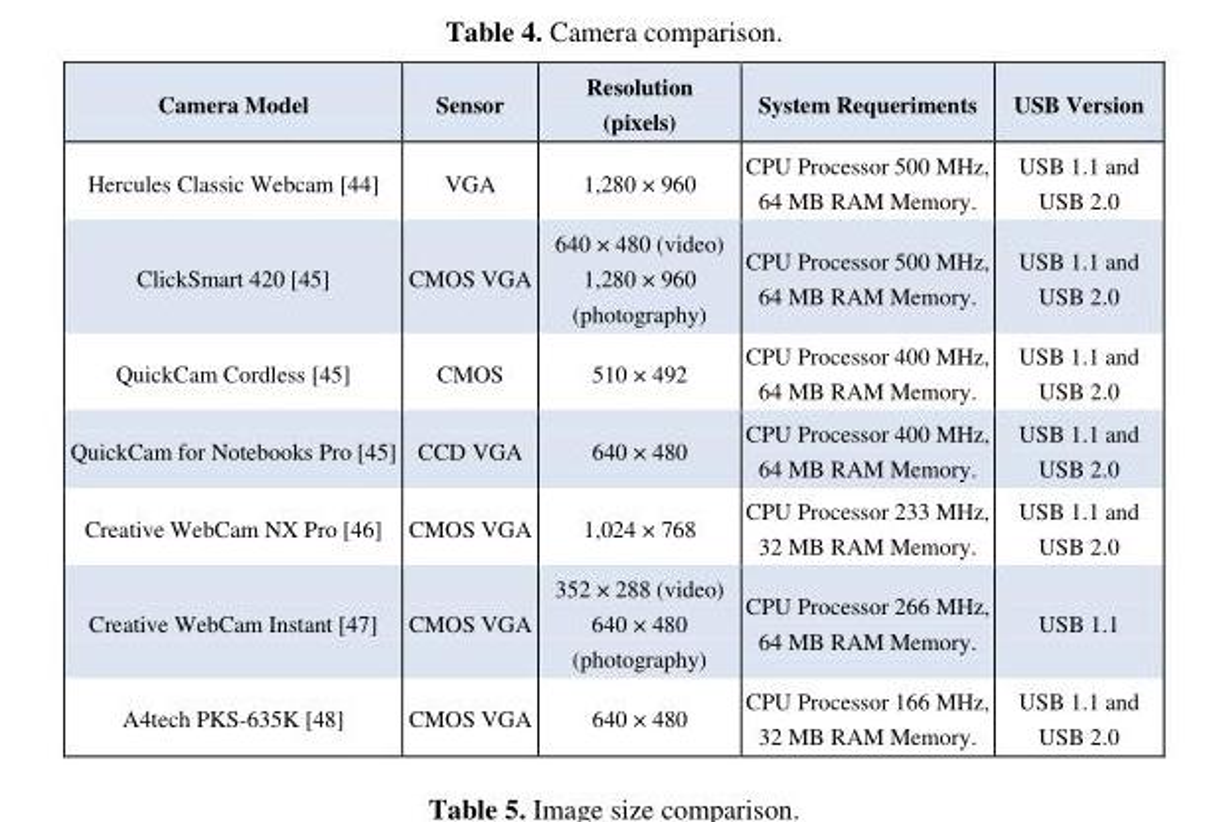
<table><thead><tr><td>Camera Model</td><td>Sensor</td><td>Resolution (pixels)</td><td>System Requeriments</td><td>USB Version</td></tr></thead><tbody><tr><td>Hercules Classic Webcam [44]</td><td>VGA</td><td>1,280 × 960</td><td>CPU Processor 500 MHz, 64 MB RAM Memory.</td><td>USB 1.1 and USB 2.0</td></tr><tr><td>ClickSmart 420 [45]</td><td>CMOS VGA</td><td>640 × 480 (video) 1,280 × 960 (photography)</td><td>CPU Processor 500 MHz, 64 MB RAM Memory.</td><td>USB 1.1 and USB 2.0</td></tr><tr><td>QuickCam Cordless [45]</td><td>CMOS</td><td>510 × 492</td><td>CPU Processor 400 MHz, 64 MB RAM Memory.</td><td>USB 1.1 and USB 2.0</td></tr><tr><td>QuickCam for Notebooks Pro [45]</td><td>CCD VGA</td><td>640 × 480</td><td>CPU Processor 400 MHz, 64 MB RAM Memory.</td><td>USB 1.1 and USB 2.0</td></tr><tr><td>Creative WebCam NX Pro [46]</td><td>CMOS VGA</td><td>1,024 × 768</td><td>CPU Processor 233 MHz, 32 MB RAM Memory.</td><td>USB 1.1 and USB 2.0</td></tr><tr><td>Creative WebCam Instant [47]</td><td>CMOS VGA</td><td>352 × 288 (video) 640 × 480 (photography)</td><td>CPU Processor 266 MHz, 64 MB RAM Memory.</td><td>USB 1.1</td></tr><tr><td>A4tech PKS-635K [48]</td><td>CMOS VGA</td><td>640 × 480</td><td>CPU Processor 166 MHz, 32 MB RAM Memory.</td><td>USB 1.1 and USB 2.0</td></tr></tbody></table>